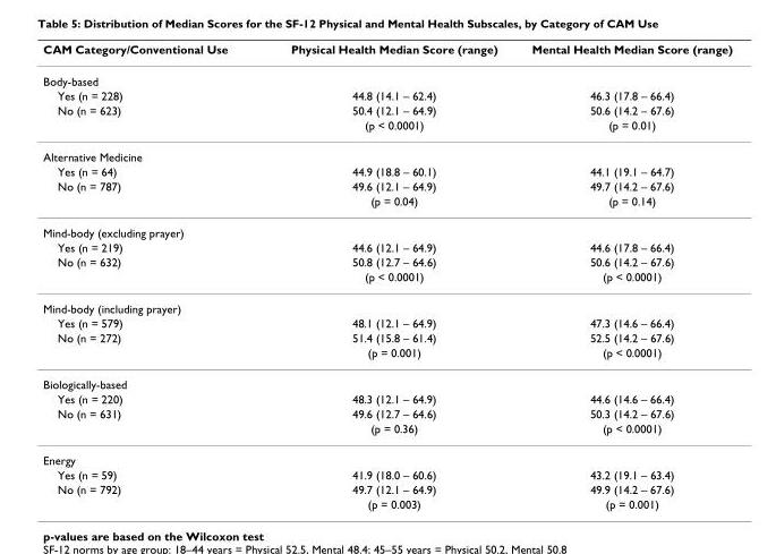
<table><thead><tr><td>CAM Category/Conventional Use</td><td>Physical Health Median Score (range)</td><td>Mental Health Median Score (range)</td></tr></thead><tbody><tr><td colspan="3">Body-based</td></tr><tr><td>Yes (n = 228)</td><td>44.8 (14.1 – 62.4)</td><td>46.3 (17.8 – 66.4)</td></tr><tr><td rowspan="2">No (n = 623)</td><td>50.4 (12.1 – 64.9)</td><td>50.6 (14.2 – 67.6)</td></tr><tr><td>(p &lt; 0.0001)</td><td>(p = 0.01)</td></tr><tr><td colspan="3">Alternative Medicine</td></tr><tr><td>Yes (n = 64)</td><td>44.9 (18.8 – 60.1)</td><td>44.1 (19.1 – 64.7)</td></tr><tr><td rowspan="2">No (n = 787)</td><td>49.6 (12.1 – 64.9)</td><td>49.7 (14.2 – 67.6)</td></tr><tr><td>(p = 0.04)</td><td>(p = 0.14)</td></tr><tr><td colspan="3">Mind-body (excluding prayer)</td></tr><tr><td>Yes (n = 219)</td><td>44.6 (12.1 – 64.9)</td><td>44.6 (17.8 – 66.4)</td></tr><tr><td rowspan="2">No (n = 632)</td><td>50.8 (12.7 – 64.6)</td><td>50.6 (14.2 – 67.6)</td></tr><tr><td>(p &lt; 0.0001)</td><td>(p &lt; 0.0001)</td></tr><tr><td colspan="3">Mind-body (including prayer)</td></tr><tr><td>Yes (n = 579)</td><td>48.1 (12.1 – 64.9)</td><td>47.3 (14.6 – 66.4)</td></tr><tr><td rowspan="2">No (n = 272)</td><td>51.4 (15.8 – 61.4)</td><td>52.5 (14.2 – 67.6)</td></tr><tr><td>(p = 0.001)</td><td>(p &lt; 0.0001)</td></tr><tr><td colspan="3">Biologically-based</td></tr><tr><td>Yes (n = 220)</td><td>48.3 (12.1 – 64.9)</td><td>44.6 (14.6 – 66.4)</td></tr><tr><td rowspan="2">No (n = 631)</td><td>49.6 (12.7 – 64.6)</td><td>50.3 (14.2 – 67.6)</td></tr><tr><td>(p = 0.36)</td><td>(p &lt; 0.0001)</td></tr><tr><td colspan="3">Energy</td></tr><tr><td>Yes (n = 59)</td><td>41.9 (18.0 – 60.6)</td><td>43.2 (19.1 – 63.4)</td></tr><tr><td rowspan="2">No (n = 792)</td><td>49.7 (12.1 – 64.9)</td><td>49.9 (14.2 – 67.6)</td></tr><tr><td>(p = 0.003)</td><td>(p = 0.001)</td></tr></tbody></table>